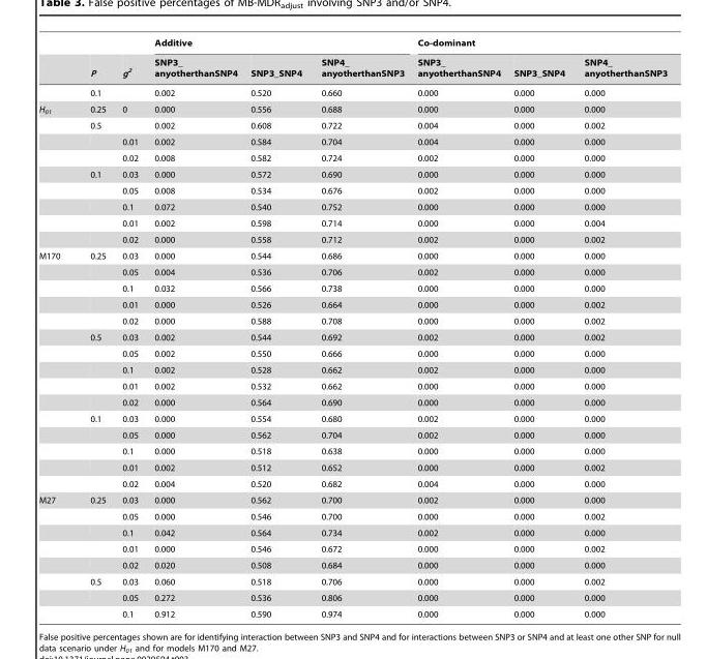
<table><thead><tr><td rowspan="2"></td><td rowspan="2">P</td><td rowspan="2">g<sup>2</sup></td><td colspan="3">Additive</td><td colspan="3">Co-dominant</td></tr><tr><td>SNP3_ anyotherthanSNP4</td><td>SNP3_SNP4</td><td>SNP4_ anyotherthanSNP3</td><td>SNP3_ anyotherthanSNP4</td><td>SNP3_SNP4</td><td>SNP4_ anyotherthanSNP3</td></tr></thead><tbody><tr><td></td><td>0.1</td><td></td><td>0.002</td><td>0.520</td><td>0.660</td><td>0.000</td><td>0.000</td><td>0.000</td></tr><tr><td rowspan="9">H<sub>01</sub></td><td>0.25</td><td>0</td><td>0.000</td><td>0.556</td><td>0.688</td><td>0.000</td><td>0.000</td><td>0.000</td></tr><tr><td>0.5</td><td></td><td>0.002</td><td>0.608</td><td>0.722</td><td>0.004</td><td>0.000</td><td>0.002</td></tr><tr><td></td><td>0.01</td><td>0.002</td><td>0.584</td><td>0.704</td><td>0.004</td><td>0.000</td><td>0.000</td></tr><tr><td></td><td>0.02</td><td>0.008</td><td>0.582</td><td>0.724</td><td>0.002</td><td>0.000</td><td>0.000</td></tr><tr><td>0.1</td><td>0.03</td><td>0.000</td><td>0.572</td><td>0.690</td><td>0.000</td><td>0.000</td><td>0.000</td></tr><tr><td></td><td>0.05</td><td>0.008</td><td>0.534</td><td>0.676</td><td>0.002</td><td>0.000</td><td>0.000</td></tr><tr><td></td><td>0.1</td><td>0.072</td><td>0.540</td><td>0.752</td><td>0.000</td><td>0.000</td><td>0.000</td></tr><tr><td></td><td>0.01</td><td>0.002</td><td>0.598</td><td>0.714</td><td>0.000</td><td>0.000</td><td>0.004</td></tr><tr><td></td><td>0.02</td><td>0.000</td><td>0.558</td><td>0.712</td><td>0.002</td><td>0.000</td><td>0.002</td></tr><tr><td rowspan="15">M170</td><td>0.25</td><td>0.03</td><td>0.000</td><td>0.544</td><td>0.686</td><td>0.000</td><td>0.000</td><td>0.000</td></tr><tr><td></td><td>0.05</td><td>0.004</td><td>0.536</td><td>0.706</td><td>0.002</td><td>0.000</td><td>0.000</td></tr><tr><td></td><td>0.1</td><td>0.032</td><td>0.566</td><td>0.738</td><td>0.000</td><td>0.000</td><td>0.000</td></tr><tr><td></td><td>0.01</td><td>0.000</td><td>0.526</td><td>0.664</td><td>0.000</td><td>0.000</td><td>0.002</td></tr><tr><td></td><td>0.02</td><td>0.000</td><td>0.588</td><td>0.708</td><td>0.000</td><td>0.000</td><td>0.002</td></tr><tr><td>0.5</td><td>0.03</td><td>0.002</td><td>0.544</td><td>0.692</td><td>0.002</td><td>0.000</td><td>0.002</td></tr><tr><td></td><td>0.05</td><td>0.002</td><td>0.550</td><td>0.666</td><td>0.000</td><td>0.000</td><td>0.000</td></tr><tr><td></td><td>0.1</td><td>0.002</td><td>0.528</td><td>0.662</td><td>0.002</td><td>0.000</td><td>0.000</td></tr><tr><td></td><td>0.01</td><td>0.002</td><td>0.532</td><td>0.662</td><td>0.000</td><td>0.000</td><td>0.000</td></tr><tr><td></td><td>0.02</td><td>0.000</td><td>0.564</td><td>0.690</td><td>0.000</td><td>0.000</td><td>0.000</td></tr><tr><td>0.1</td><td>0.03</td><td>0.000</td><td>0.554</td><td>0.680</td><td>0.002</td><td>0.000</td><td>0.000</td></tr><tr><td></td><td>0.05</td><td>0.000</td><td>0.562</td><td>0.704</td><td>0.002</td><td>0.000</td><td>0.000</td></tr><tr><td></td><td>0.1</td><td>0.000</td><td>0.518</td><td>0.638</td><td>0.000</td><td>0.000</td><td>0.000</td></tr><tr><td></td><td>0.01</td><td>0.002</td><td>0.512</td><td>0.652</td><td>0.000</td><td>0.000</td><td>0.002</td></tr><tr><td></td><td>0.02</td><td>0.004</td><td>0.520</td><td>0.682</td><td>0.004</td><td>0.000</td><td>0.000</td></tr><tr><td rowspan="8">M27</td><td>0.25</td><td>0.03</td><td>0.000</td><td>0.562</td><td>0.700</td><td>0.002</td><td>0.000</td><td>0.000</td></tr><tr><td></td><td>0.05</td><td>0.000</td><td>0.546</td><td>0.700</td><td>0.000</td><td>0.000</td><td>0.002</td></tr><tr><td></td><td>0.1</td><td>0.042</td><td>0.564</td><td>0.734</td><td>0.002</td><td>0.000</td><td>0.000</td></tr><tr><td></td><td>0.01</td><td>0.000</td><td>0.546</td><td>0.672</td><td>0.000</td><td>0.000</td><td>0.002</td></tr><tr><td></td><td>0.02</td><td>0.020</td><td>0.508</td><td>0.684</td><td>0.000</td><td>0.000</td><td>0.000</td></tr><tr><td>0.5</td><td>0.03</td><td>0.060</td><td>0.518</td><td>0.706</td><td>0.000</td><td>0.000</td><td>0.002</td></tr><tr><td></td><td>0.05</td><td>0.272</td><td>0.536</td><td>0.806</td><td>0.000</td><td>0.000</td><td>0.000</td></tr><tr><td></td><td>0.1</td><td>0.912</td><td>0.590</td><td>0.974</td><td>0.000</td><td>0.000</td><td>0.000</td></tr></tbody></table>